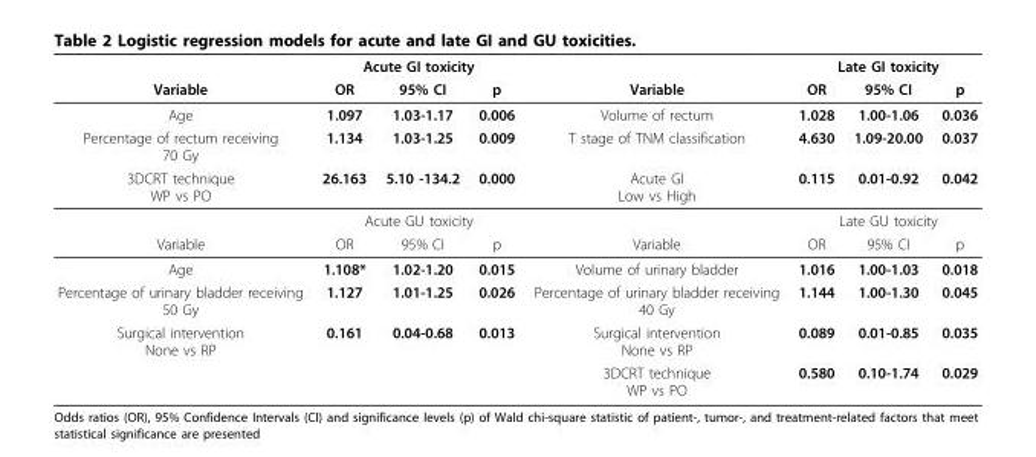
<table><thead><tr><td rowspan="2">Variable</td><td colspan="3">Acute GI toxicity</td><td rowspan="2">Variable</td><td colspan="3">Late GI toxicity</td></tr><tr><td>OR</td><td>95% CI</td><td>p</td><td>OR</td><td>95% CI</td><td>p</td></tr></thead><tbody><tr><td>Age</td><td>1.097</td><td>1.03-1.17</td><td>0.006</td><td>Volume of rectum</td><td>1.028</td><td>1.00-1.06</td><td>0.036</td></tr><tr><td>Percentage of rectum receiving 70 Gy</td><td>1.134</td><td>1.03-1.25</td><td>0.009</td><td>T stage of TNM classification</td><td>4.630</td><td>1.09-20.00</td><td>0.037</td></tr><tr><td rowspan="2">3DCRT technique WP vs PO</td><td>26.163</td><td>5.10 -134.2</td><td>0.000</td><td>Acute GI Low vs High</td><td>0.115</td><td>0.01-0.92</td><td>0.042</td></tr><tr><td colspan="3">Acute GU toxicity</td><td></td><td colspan="3">Late GU toxicity</td></tr><tr><td>Variable</td><td>OR</td><td>95% CI</td><td>p</td><td>Variable</td><td>OR</td><td>95% CI</td><td>p</td></tr><tr><td>Age</td><td>1.108*</td><td>1.02-1.20</td><td>0.015</td><td>Volume of urinary bladder</td><td>1.016</td><td>1.00-1.03</td><td>0.018</td></tr><tr><td>Percentage of urinary bladder receiving 50 Gy</td><td>1.127</td><td>1.01-1.25</td><td>0.026</td><td>Percentage of urinary bladder receiving 40 Gy</td><td>1.144</td><td>1.00-1.30</td><td>0.045</td></tr><tr><td rowspan="2">Surgical intervention None vs RP</td><td>0.161</td><td>0.04-0.68</td><td>0.013</td><td>Surgical intervention None vs RP</td><td>0.089</td><td>0.01-0.85</td><td>0.035</td></tr><tr><td></td><td></td><td></td><td>3DCRT technique WP vs PO</td><td>0.580</td><td>0.10-1.74</td><td>0.029</td></tr></tbody></table>